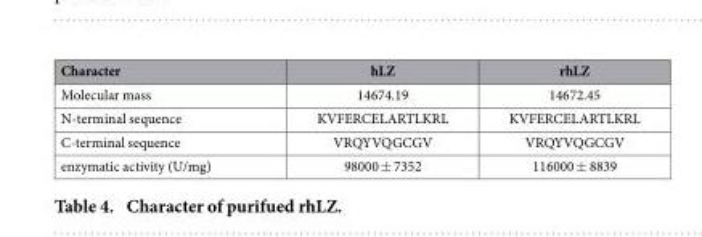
<table><thead><tr><td>Character</td><td>hLZ</td><td>rhLZ</td></tr></thead><tbody><tr><td>Molecular mass</td><td>14674.19</td><td>14672.45</td></tr><tr><td>N-terminal sequence</td><td>KVFERCELARTLKRL</td><td>KVFERCELARTLKRL</td></tr><tr><td>C-terminal sequence</td><td>VRQYVQGCGV</td><td>VRQYVQGCGV</td></tr><tr><td>enzymatic activity (U/mg)</td><td>98000 ± 7352</td><td>116000 ± 8839</td></tr></tbody></table>